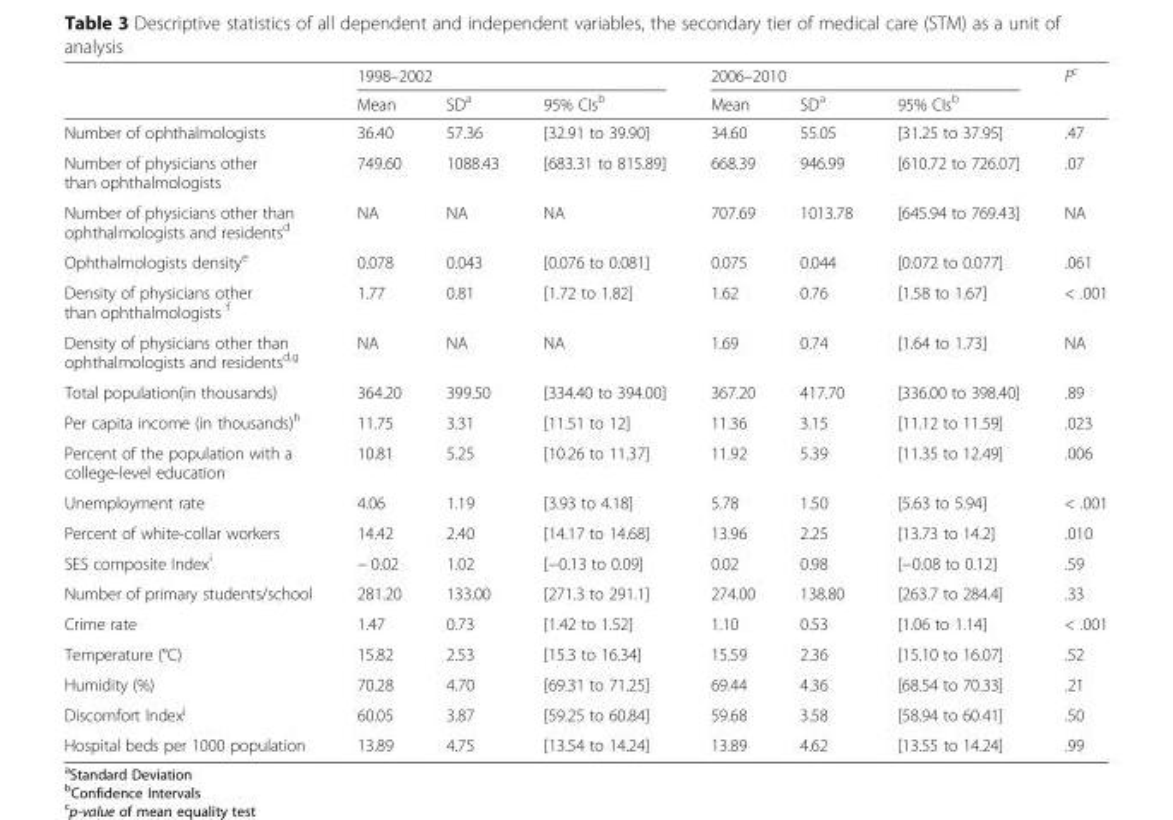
<table><thead><tr><td rowspan="2"></td><td colspan="3">1998–2002</td><td colspan="3">2006–2010</td><td rowspan="2">P<sup>c</sup></td></tr><tr><td>Mean</td><td>SD<sup>a</sup></td><td>95% CIs<sup>b</sup></td><td>Mean</td><td>SD<sup>a</sup></td><td>95% CIs<sup>b</sup></td></tr></thead><tbody><tr><td>Number of ophthalmologists</td><td>36.40</td><td>57.36</td><td>[32.91 to 39.90]</td><td>34.60</td><td>55.05</td><td>[31.25 to 37.95]</td><td>.47</td></tr><tr><td>Number of physicians other than ophthalmologists</td><td>749.60</td><td>1088.43</td><td>[683.31 to 815.89]</td><td>668.39</td><td>946.99</td><td>[610.72 to 726.07]</td><td>.07</td></tr><tr><td>Number of physicians other than ophthalmologists and residents<sup>d</sup></td><td>NA</td><td>NA</td><td>NA</td><td>707.69</td><td>1013.78</td><td>[645.94 to 769.43]</td><td>NA</td></tr><tr><td>Ophthalmologists density<sup>e</sup></td><td>0.078</td><td>0.043</td><td>[0.076 to 0.081]</td><td>0.075</td><td>0.044</td><td>[0.072 to 0.077]</td><td>.061</td></tr><tr><td>Density of physicians other than ophthalmologists <sup>f</sup></td><td>1.77</td><td>0.81</td><td>[1.72 to 1.82]</td><td>1.62</td><td>0.76</td><td>[1.58 to 1.67]</td><td>&lt; .001</td></tr><tr><td>Density of physicians other than ophthalmologists and residents<sup>d,g</sup></td><td>NA</td><td>NA</td><td>NA</td><td>1.69</td><td>0.74</td><td>[1.64 to 1.73]</td><td>NA</td></tr><tr><td>Total population(in thousands)</td><td>364.20</td><td>399.50</td><td>[334.40 to 394.00]</td><td>367.20</td><td>417.70</td><td>[336.00 to 398.40]</td><td>.89</td></tr><tr><td>Per capita income (in thousands)<sup>h</sup></td><td>11.75</td><td>3.31</td><td>[11.51 to 12]</td><td>11.36</td><td>3.15</td><td>[11.12 to 11.59]</td><td>.023</td></tr><tr><td>Percent of the population with a college-level education</td><td>10.81</td><td>5.25</td><td>[10.26 to 11.37]</td><td>11.92</td><td>5.39</td><td>[11.35 to 12.49]</td><td>.006</td></tr><tr><td>Unemployment rate</td><td>4.06</td><td>1.19</td><td>[3.93 to 4.18]</td><td>5.78</td><td>1.50</td><td>[5.63 to 5.94]</td><td>&lt; .001</td></tr><tr><td>Percent of white-collar workers</td><td>14.42</td><td>2.40</td><td>[14.17 to 14.68]</td><td>13.96</td><td>2.25</td><td>[13.73 to 14.2]</td><td>.010</td></tr><tr><td>SES composite Index<sup>i</sup></td><td>− 0.02</td><td>1.02</td><td>[−0.13 to 0.09]</td><td>0.02</td><td>0.98</td><td>[−0.08 to 0.12]</td><td>.59</td></tr><tr><td>Number of primary students/school</td><td>281.20</td><td>133.00</td><td>[271.3 to 291.1]</td><td>274.00</td><td>138.80</td><td>[263.7 to 284.4]</td><td>.33</td></tr><tr><td>Crime rate</td><td>1.47</td><td>0.73</td><td>[1.42 to 1.52]</td><td>1.10</td><td>0.53</td><td>[1.06 to 1.14]</td><td>&lt; .001</td></tr><tr><td>Temperature (°C)</td><td>15.82</td><td>2.53</td><td>[15.3 to 16.34]</td><td>15.59</td><td>2.36</td><td>[15.10 to 16.07]</td><td>.52</td></tr><tr><td>Humidity (%)</td><td>70.28</td><td>4.70</td><td>[69.31 to 71.25]</td><td>69.44</td><td>4.36</td><td>[68.54 to 70.33]</td><td>.21</td></tr><tr><td>Discomfort Index<sup>j</sup></td><td>60.05</td><td>3.87</td><td>[59.25 to 60.84]</td><td>59.68</td><td>3.58</td><td>[58.94 to 60.41]</td><td>.50</td></tr><tr><td>Hospital beds per 1000 population</td><td>13.89</td><td>4.75</td><td>[13.54 to 14.24]</td><td>13.89</td><td>4.62</td><td>[13.55 to 14.24]</td><td>.99</td></tr></tbody></table>